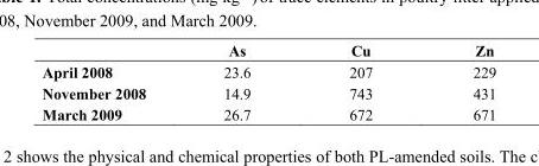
<table><thead><tr><td></td><td>As</td><td>Cu</td><td>Zn</td></tr></thead><tbody><tr><td>April 2008</td><td>23.6</td><td>207</td><td>229</td></tr><tr><td>November 2008</td><td>14.9</td><td>743</td><td>431</td></tr><tr><td>March 2009</td><td>26.7</td><td>672</td><td>671</td></tr></tbody></table>